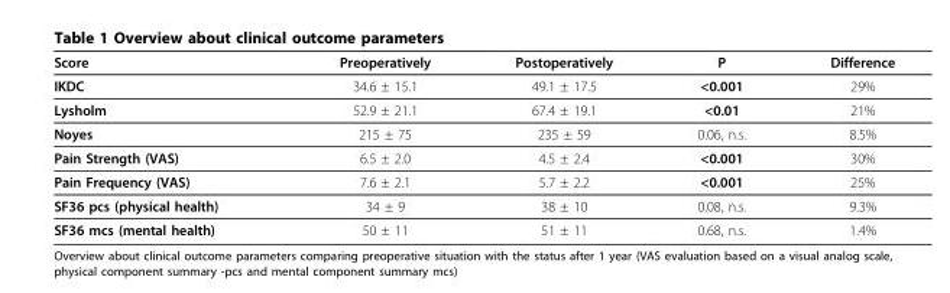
<table><thead><tr><td>Score</td><td>Preoperatively</td><td>Postoperatively</td><td>P</td><td>Difference</td></tr></thead><tbody><tr><td>IKDC</td><td>34.6 ± 15.1</td><td>49.1 ± 17.5</td><td>&lt;0.001</td><td>29%</td></tr><tr><td>Lysholm</td><td>52.9 ± 21.1</td><td>67.4 ± 19.1</td><td>&lt;0.01</td><td>21%</td></tr><tr><td>Noyes</td><td>215 ± 75</td><td>235 ± 59</td><td>0.06, n.s.</td><td>8.5%</td></tr><tr><td>Pain Strength (VAS)</td><td>6.5 ± 2.0</td><td>4.5 ± 2.4</td><td>&lt;0.001</td><td>30%</td></tr><tr><td>Pain Frequency (VAS)</td><td>7.6 ± 2.1</td><td>5.7 ± 2.2</td><td>&lt;0.001</td><td>25%</td></tr><tr><td>SF36 pcs (physical health)</td><td>34 ± 9</td><td>38 ± 10</td><td>0.08, n.s.</td><td>9.3%</td></tr><tr><td>SF36 mcs (mental health)</td><td>50 ± 11</td><td>51 ± 11</td><td>0.68, n.s.</td><td>1.4%</td></tr></tbody></table>